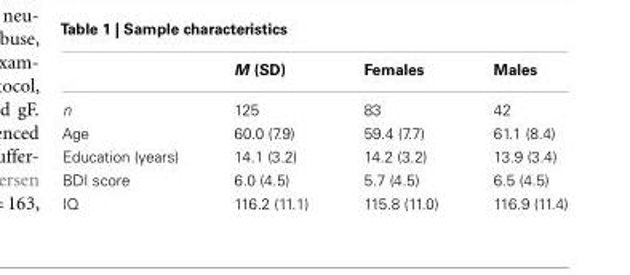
<table><thead><tr><td></td><td>M (SD)</td><td>Females</td><td>Males</td></tr></thead><tbody><tr><td>n</td><td>125</td><td>83</td><td>42</td></tr><tr><td>Age</td><td>60.0 (7.9)</td><td>59.4 (7.7)</td><td>61.1 (8.4)</td></tr><tr><td>Education (years)</td><td>14.1 (3.2)</td><td>14.2 (3.2)</td><td>13.9 (3.4)</td></tr><tr><td>BDI score</td><td>6.0 (4.5)</td><td>5.7 (4.5)</td><td>6.5 (4.5)</td></tr><tr><td>IQ</td><td>116.2 (11.1)</td><td>115.8 (11.0)</td><td>116.9 (11.4)</td></tr></tbody></table>